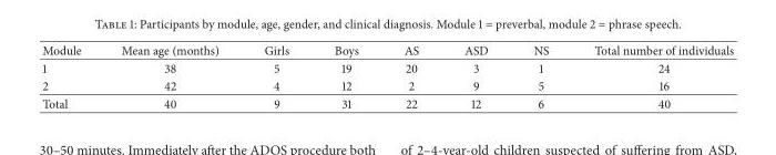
<table><thead><tr><td>Module</td><td>Mean age (months)</td><td>Girls</td><td>Boys</td><td>AS</td><td>ASD</td><td>NS</td><td>Total number of individuals</td></tr></thead><tbody><tr><td>1</td><td>38</td><td>5</td><td>19</td><td>20</td><td>3</td><td>1</td><td>24</td></tr><tr><td>2</td><td>42</td><td>4</td><td>12</td><td>2</td><td>9</td><td>5</td><td>16</td></tr><tr><td>Total</td><td>40</td><td>9</td><td>31</td><td>22</td><td>12</td><td>6</td><td>40</td></tr></tbody></table>